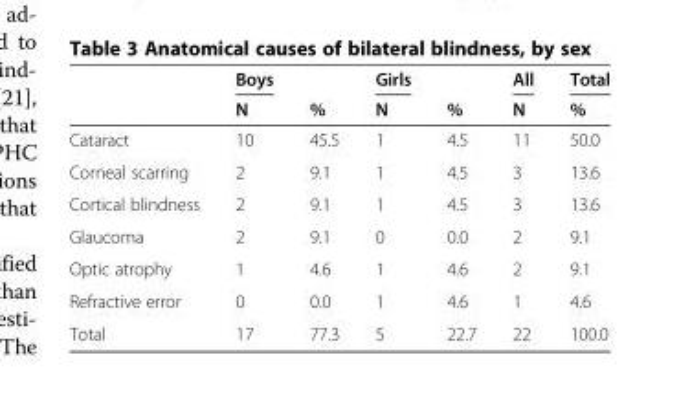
<table><thead><tr><td rowspan="2"></td><td rowspan="2">Boys N</td><td rowspan="2">%</td><td rowspan="2">Girls N</td><td rowspan="2">%</td><td rowspan="2">All N</td><td rowspan="2">Total %</td></tr><tr></tr></thead><tbody><tr><td>Cataract</td><td>10</td><td>45.5</td><td>1</td><td>4.5</td><td>11</td><td>50.0</td></tr><tr><td>Corneal scarring</td><td>2</td><td>9.1</td><td>1</td><td>4.5</td><td>3</td><td>13.6</td></tr><tr><td>Cortical blindness</td><td>2</td><td>9.1</td><td>1</td><td>4.5</td><td>3</td><td>13.6</td></tr><tr><td>Glaucoma</td><td>2</td><td>9.1</td><td>0</td><td>0.0</td><td>2</td><td>9.1</td></tr><tr><td>Optic atrophy</td><td>1</td><td>4.6</td><td>1</td><td>4.6</td><td>2</td><td>9.1</td></tr><tr><td>Refractive error</td><td>0</td><td>0.0</td><td>1</td><td>4.6</td><td>1</td><td>4.6</td></tr><tr><td>Total</td><td>17</td><td>77.3</td><td>5</td><td>22.7</td><td>22</td><td>100.0</td></tr></tbody></table>